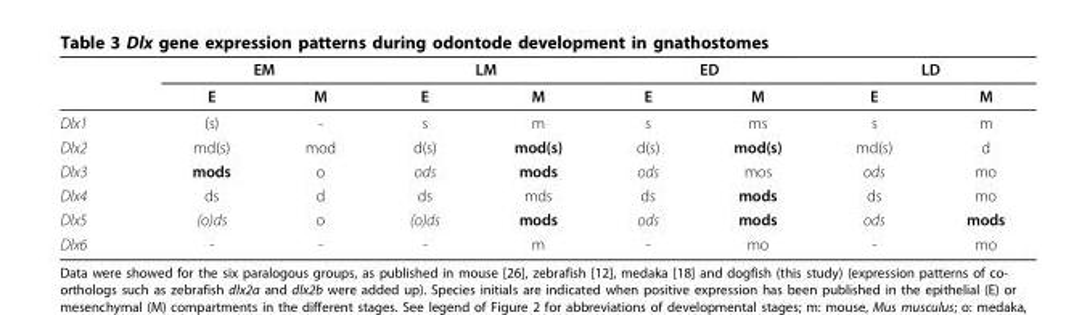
<table><thead><tr><td rowspan="2"></td><td colspan="2">EM</td><td colspan="2">LM</td><td colspan="2">ED</td><td colspan="2">LD</td></tr><tr><td>E</td><td>M</td><td>E</td><td>M</td><td>E</td><td>M</td><td>E</td><td>M</td></tr></thead><tbody><tr><td>Dlx1</td><td>(s)</td><td>-</td><td>s</td><td>m</td><td>s</td><td>ms</td><td>s</td><td>m</td></tr><tr><td>Dlx2</td><td>md(s)</td><td>mod</td><td>d(s)</td><td>mod(s)</td><td>d(s)</td><td>mod(s)</td><td>md(s)</td><td>d</td></tr><tr><td>Dlx3</td><td>mods</td><td>o</td><td>ods</td><td>mods</td><td>ods</td><td>mos</td><td>ods</td><td>mo</td></tr><tr><td>Dlx4</td><td>ds</td><td>d</td><td>ds</td><td>mds</td><td>ds</td><td>mods</td><td>ds</td><td>mo</td></tr><tr><td>Dlx5</td><td>(o)ds</td><td>o</td><td>(o)ds</td><td>mods</td><td>ods</td><td>mods</td><td>ods</td><td>mods</td></tr><tr><td>Dlx6</td><td>-</td><td>-</td><td>-</td><td>m</td><td>-</td><td>mo</td><td>-</td><td>mo</td></tr></tbody></table>